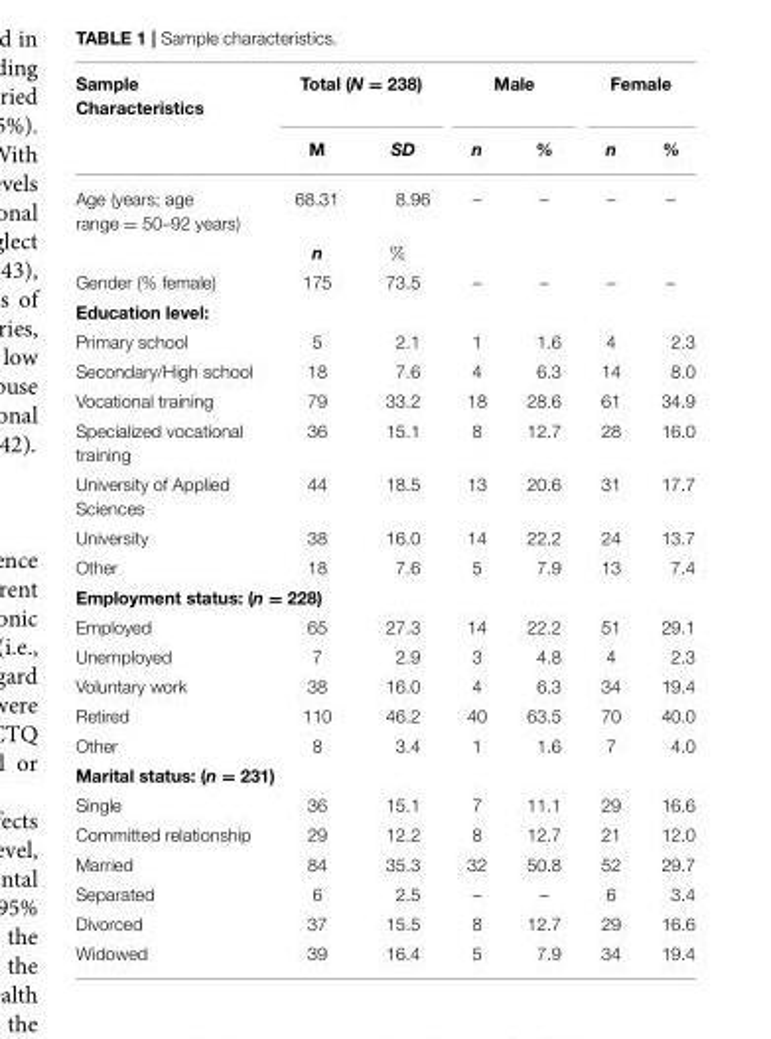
<table><thead><tr><td rowspan="2">Sample Characteristics</td><td colspan="2">Total (N = 238)</td><td colspan="2">Male</td><td colspan="2">Female</td></tr><tr><td>M</td><td>SD</td><td>n</td><td>%</td><td>n</td><td>%</td></tr></thead><tbody><tr><td rowspan="2">Age (years; age range = 50–92 years)</td><td>68.31</td><td>8.96</td><td>–</td><td>–</td><td>–</td><td>–</td></tr><tr><td>n</td><td>%</td><td></td><td></td><td></td><td></td></tr><tr><td>Gender (% female)</td><td>175</td><td>73.5</td><td>–</td><td>–</td><td>–</td><td>–</td></tr><tr><td colspan="7">Education level:</td></tr><tr><td>Primary school</td><td>5</td><td>2.1</td><td>1</td><td>1.6</td><td>4</td><td>2.3</td></tr><tr><td>Secondary/High school</td><td>18</td><td>7.6</td><td>4</td><td>6.3</td><td>14</td><td>8.0</td></tr><tr><td>Vocational training</td><td>79</td><td>33.2</td><td>18</td><td>28.6</td><td>61</td><td>34.9</td></tr><tr><td>Specialized vocational training</td><td>36</td><td>15.1</td><td>8</td><td>12.7</td><td>28</td><td>16.0</td></tr><tr><td>University of Applied Sciences</td><td>44</td><td>18.5</td><td>13</td><td>20.6</td><td>31</td><td>17.7</td></tr><tr><td>University</td><td>38</td><td>16.0</td><td>14</td><td>22.2</td><td>24</td><td>13.7</td></tr><tr><td>Other</td><td>18</td><td>7.6</td><td>5</td><td>7.9</td><td>13</td><td>7.4</td></tr><tr><td colspan="7">Employment status: (n = 228)</td></tr><tr><td>Employed</td><td>65</td><td>27.3</td><td>14</td><td>22.2</td><td>51</td><td>29.1</td></tr><tr><td>Unemployed</td><td>7</td><td>2.9</td><td>3</td><td>4.8</td><td>4</td><td>2.3</td></tr><tr><td>Voluntary work</td><td>38</td><td>16.0</td><td>4</td><td>6.3</td><td>34</td><td>19.4</td></tr><tr><td>Retired</td><td>110</td><td>46.2</td><td>40</td><td>63.5</td><td>70</td><td>40.0</td></tr><tr><td>Other</td><td>8</td><td>3.4</td><td>1</td><td>1.6</td><td>7</td><td>4.0</td></tr><tr><td colspan="7">Marital status: (n = 231)</td></tr><tr><td>Single</td><td>36</td><td>15.1</td><td>7</td><td>11.1</td><td>29</td><td>16.6</td></tr><tr><td>Committed relationship</td><td>29</td><td>12.2</td><td>8</td><td>12.7</td><td>21</td><td>12.0</td></tr><tr><td>Married</td><td>84</td><td>35.3</td><td>32</td><td>50.8</td><td>52</td><td>29.7</td></tr><tr><td>Separated</td><td>6</td><td>2.5</td><td>–</td><td>–</td><td>6</td><td>3.4</td></tr><tr><td>Divorced</td><td>37</td><td>15.5</td><td>8</td><td>12.7</td><td>29</td><td>16.6</td></tr><tr><td>Widowed</td><td>39</td><td>16.4</td><td>5</td><td>7.9</td><td>34</td><td>19.4</td></tr></tbody></table>